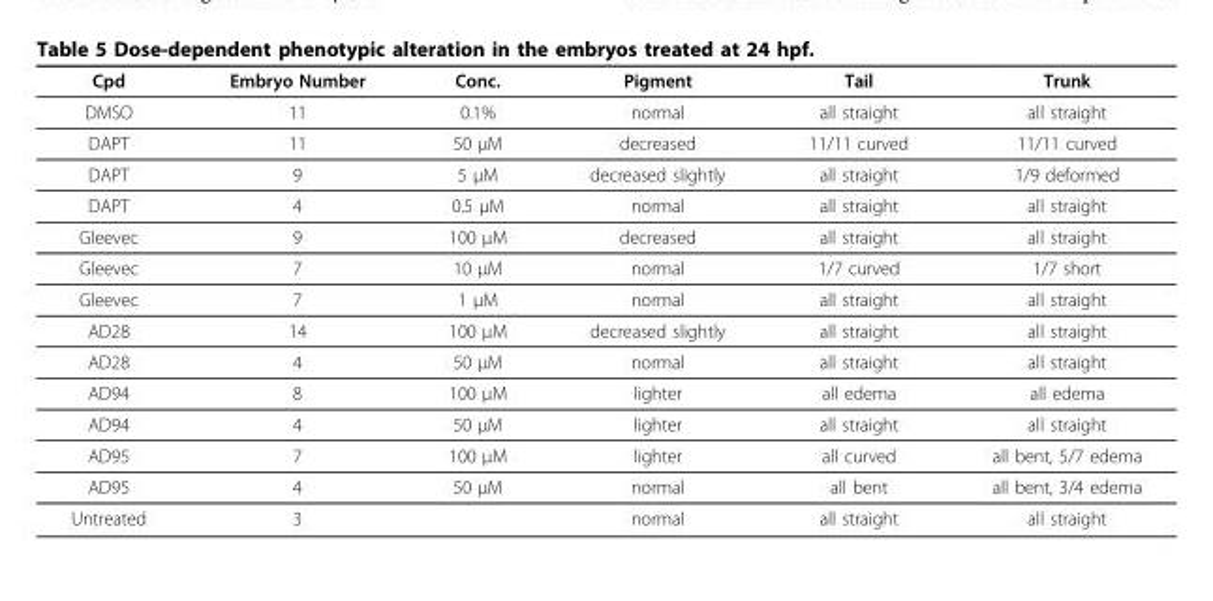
<table><thead><tr><td>Cpd</td><td>Embryo Number</td><td>Conc.</td><td>Pigment</td><td>Tail</td><td>Trunk</td></tr></thead><tbody><tr><td>DMSO</td><td>11</td><td>0.1%</td><td>normal</td><td>all straight</td><td>all straight</td></tr><tr><td>DAPT</td><td>11</td><td>50 μM</td><td>decreased</td><td>11/11 curved</td><td>11/11 curved</td></tr><tr><td>DAPT</td><td>9</td><td>5 μM</td><td>decreased slightly</td><td>all straight</td><td>1/9 deformed</td></tr><tr><td>DAPT</td><td>4</td><td>0.5 μM</td><td>normal</td><td>all straight</td><td>all straight</td></tr><tr><td>Gleevec</td><td>9</td><td>100 μM</td><td>decreased</td><td>all straight</td><td>all straight</td></tr><tr><td>Gleevec</td><td>7</td><td>10 μM</td><td>normal</td><td>1/7 curved</td><td>1/7 short</td></tr><tr><td>Gleevec</td><td>7</td><td>1 μM</td><td>normal</td><td>all straight</td><td>all straight</td></tr><tr><td>AD28</td><td>14</td><td>100 μM</td><td>decreased slightly</td><td>all straight</td><td>all straight</td></tr><tr><td>AD28</td><td>4</td><td>50 μM</td><td>normal</td><td>all straight</td><td>all straight</td></tr><tr><td>AD94</td><td>8</td><td>100 μM</td><td>lighter</td><td>all edema</td><td>all edema</td></tr><tr><td>AD94</td><td>4</td><td>50 μM</td><td>lighter</td><td>all straight</td><td>all straight</td></tr><tr><td>AD95</td><td>7</td><td>100 μM</td><td>lighter</td><td>all curved</td><td>all bent, 5/7 edema</td></tr><tr><td>AD95</td><td>4</td><td>50 μM</td><td>normal</td><td>all bent</td><td>all bent, 3/4 edema</td></tr><tr><td>Untreated</td><td>3</td><td></td><td>normal</td><td>all straight</td><td>all straight</td></tr></tbody></table>